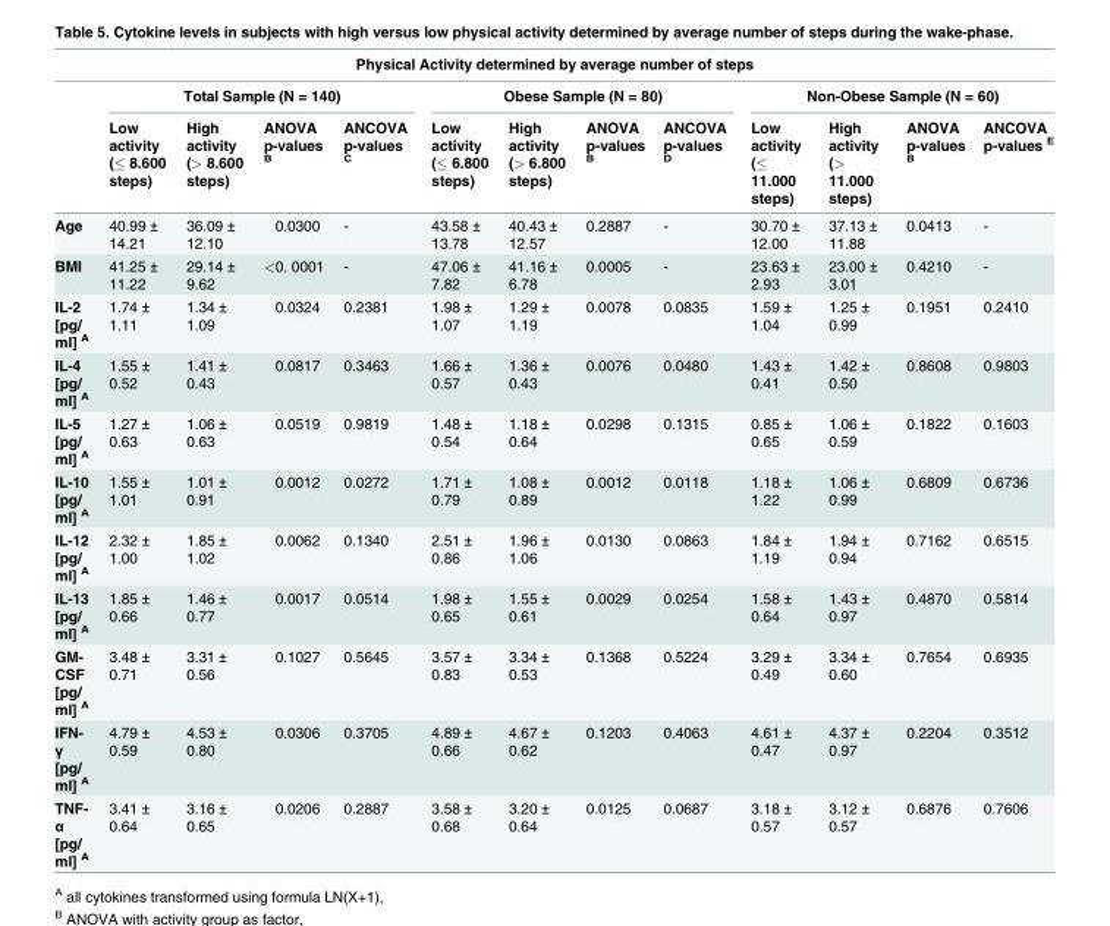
<table><thead><tr><td colspan="13">Physical Activity determined by average number of steps</td></tr><tr><td rowspan="2"></td><td colspan="4">Total Sample (N = 140)</td><td colspan="4">Obese Sample (N = 80)</td><td colspan="4">Non-Obese Sample (N = 60)</td></tr><tr><td>Low activity (≤ 8.600 steps)</td><td>High activity (&gt; 8.600 steps)</td><td>ANOVA p-values <sup>B</sup></td><td>ANCOVA p-values <sup>C</sup></td><td>Low activity (≤ 6.800 steps)</td><td>High activity (&gt; 6.800 steps)</td><td>ANOVA p-values <sup>B</sup></td><td>ANCOVA p-values <sup>D</sup></td><td>Low activity (≤ 11.000 steps)</td><td>High activity (&gt; 11.000 steps)</td><td>ANOVA p-values <sup>B</sup></td><td>ANCOVA p-values <sup>E</sup></td></tr></thead><tbody><tr><td>Age</td><td>40.99 ± 14.21</td><td>36.09 ± 12.10</td><td>0.0300</td><td>-</td><td>43.58 ± 13.78</td><td>40.43 ± 12.57</td><td>0.2887</td><td>-</td><td>30.70 ± 12.00</td><td>37.13 ± 11.88</td><td>0.0413</td><td>-</td></tr><tr><td>BMI</td><td>41.25 ± 11.22</td><td>29.14 ± 9.62</td><td>&lt;0. 0001</td><td>-</td><td>47.06 ± 7.82</td><td>41.16 ± 6.78</td><td>0.0005</td><td>-</td><td>23.63 ± 2.93</td><td>23.00 ± 3.01</td><td>0.4210</td><td>-</td></tr><tr><td>IL-2 [pg/ ml] <sup>A</sup></td><td>1.74 ± 1.11</td><td>1.34 ± 1.09</td><td>0.0324</td><td>0.2381</td><td>1.98 ± 1.07</td><td>1.29 ± 1.19</td><td>0.0078</td><td>0.0835</td><td>1.59 ± 1.04</td><td>1.25 ± 0.99</td><td>0.1951</td><td>0.2410</td></tr><tr><td>IL-4 [pg/ ml] <sup>A</sup></td><td>1.55 ± 0.52</td><td>1.41 ± 0.43</td><td>0.0817</td><td>0.3463</td><td>1.66 ± 0.57</td><td>1.36 ± 0.43</td><td>0.0076</td><td>0.0480</td><td>1.43 ± 0.41</td><td>1.42 ± 0.50</td><td>0.8608</td><td>0.9803</td></tr><tr><td>IL-5 [pg/ ml] <sup>A</sup></td><td>1.27 ± 0.63</td><td>1.06 ± 0.63</td><td>0.0519</td><td>0.9819</td><td>1.48 ± 0.54</td><td>1.18 ± 0.64</td><td>0.0298</td><td>0.1315</td><td>0.85 ± 0.65</td><td>1.06 ± 0.59</td><td>0.1822</td><td>0.1603</td></tr><tr><td>IL-10 [pg/ ml] <sup>A</sup></td><td>1.55 ± 1.01</td><td>1.01 ± 0.91</td><td>0.0012</td><td>0.0272</td><td>1.71 ± 0.79</td><td>1.08 ± 0.89</td><td>0.0012</td><td>0.0118</td><td>1.18 ± 1.22</td><td>1.06 ± 0.99</td><td>0.6809</td><td>0.6736</td></tr><tr><td>IL-12 [pg/ ml] <sup>A</sup></td><td>2.32 ± 1.00</td><td>1.85 ± 1.02</td><td>0.0062</td><td>0.1340</td><td>2.51 ± 0.86</td><td>1.96 ± 1.06</td><td>0.0130</td><td>0.0863</td><td>1.84 ± 1.19</td><td>1.94 ± 0.94</td><td>0.7162</td><td>0.6515</td></tr><tr><td>IL-13 [pg/ ml] <sup>A</sup></td><td>1.85 ± 0.66</td><td>1.46 ± 0.77</td><td>0.0017</td><td>0.0514</td><td>1.98 ± 0.65</td><td>1.55 ± 0.61</td><td>0.0029</td><td>0.0254</td><td>1.58 ± 0.64</td><td>1.43 ± 0.97</td><td>0.4870</td><td>0.5814</td></tr><tr><td>GM- CSF [pg/ ml] <sup>A</sup></td><td>3.48 ± 0.71</td><td>3.31 ± 0.56</td><td>0.1027</td><td>0.5645</td><td>3.57 ± 0.83</td><td>3.34 ± 0.53</td><td>0.1368</td><td>0.5224</td><td>3.29 ± 0.49</td><td>3.34 ± 0.60</td><td>0.7654</td><td>0.6935</td></tr><tr><td>IFN- γ [pg/ ml] <sup>A</sup></td><td>4.79 ± 0.59</td><td>4.53 ± 0.80</td><td>0.0306</td><td>0.3705</td><td>4.89 ± 0.66</td><td>4.67 ± 0.62</td><td>0.1203</td><td>0.4063</td><td>4.61 ± 0.47</td><td>4.37 ± 0.97</td><td>0.2204</td><td>0.3512</td></tr><tr><td>TNF- α [pg/ ml] <sup>A</sup></td><td>3.41 ± 0.64</td><td>3.16 ± 0.65</td><td>0.0206</td><td>0.2887</td><td>3.58 ± 0.68</td><td>3.20 ± 0.64</td><td>0.0125</td><td>0.0687</td><td>3.18 ± 0.57</td><td>3.12 ± 0.57</td><td>0.6876</td><td>0.7606</td></tr></tbody></table>